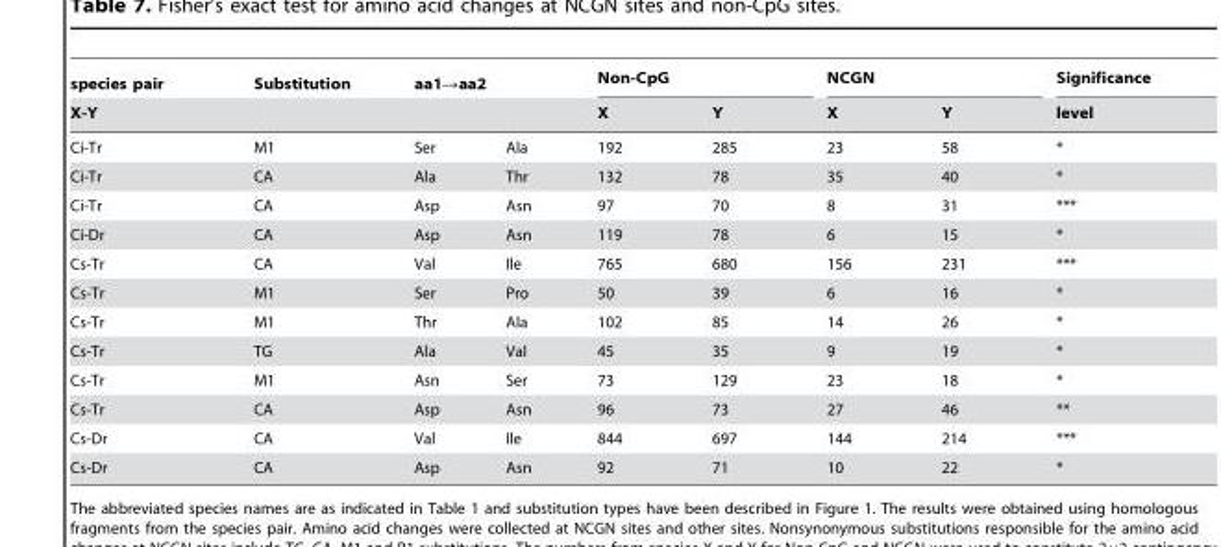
<table><thead><tr><td rowspan="2">species pair X-Y</td><td rowspan="2">Substitution</td><td colspan="2">aa1→aa2</td><td colspan="2">Non-CpG</td><td colspan="2">NCGN</td><td rowspan="2">Significance level</td></tr><tr><td></td><td></td><td>X</td><td>Y</td><td>X</td><td>Y</td></tr></thead><tbody><tr><td>Ci-Tr</td><td>M1</td><td>Ser</td><td>Ala</td><td>192</td><td>285</td><td>23</td><td>58</td><td>*</td></tr><tr><td>Ci-Tr</td><td>CA</td><td>Ala</td><td>Thr</td><td>132</td><td>78</td><td>35</td><td>40</td><td>*</td></tr><tr><td>Ci-Tr</td><td>CA</td><td>Asp</td><td>Asn</td><td>97</td><td>70</td><td>8</td><td>31</td><td>***</td></tr><tr><td>Ci-Dr</td><td>CA</td><td>Asp</td><td>Asn</td><td>119</td><td>78</td><td>6</td><td>15</td><td>*</td></tr><tr><td>Cs-Tr</td><td>CA</td><td>Val</td><td>Ile</td><td>765</td><td>680</td><td>156</td><td>231</td><td>***</td></tr><tr><td>Cs-Tr</td><td>M1</td><td>Ser</td><td>Pro</td><td>50</td><td>39</td><td>6</td><td>16</td><td>*</td></tr><tr><td>Cs-Tr</td><td>M1</td><td>Thr</td><td>Ala</td><td>102</td><td>85</td><td>14</td><td>26</td><td>*</td></tr><tr><td>Cs-Tr</td><td>TG</td><td>Ala</td><td>Val</td><td>45</td><td>35</td><td>9</td><td>19</td><td>*</td></tr><tr><td>Cs-Tr</td><td>M1</td><td>Asn</td><td>Ser</td><td>73</td><td>129</td><td>23</td><td>18</td><td>*</td></tr><tr><td>Cs-Tr</td><td>CA</td><td>Asp</td><td>Asn</td><td>96</td><td>73</td><td>27</td><td>46</td><td>**</td></tr><tr><td>Cs-Dr</td><td>CA</td><td>Val</td><td>Ile</td><td>844</td><td>697</td><td>144</td><td>214</td><td>***</td></tr><tr><td>Cs-Dr</td><td>CA</td><td>Asp</td><td>Asn</td><td>92</td><td>71</td><td>10</td><td>22</td><td>*</td></tr></tbody></table>